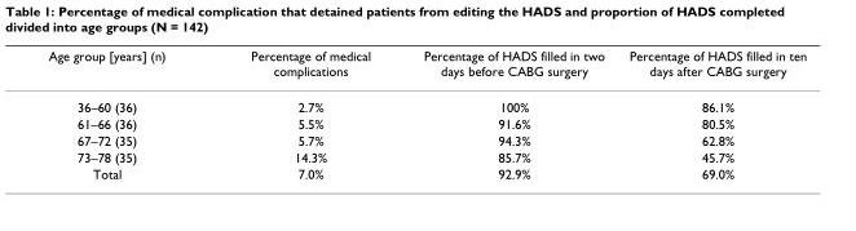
<table><thead><tr><td>Age group [years] (n)</td><td>Percentage of medical complications</td><td>Percentage of HADS filled in two days before CABG surgery</td><td>Percentage of HADS filled in ten days after CABG surgery</td></tr></thead><tbody><tr><td>36–60 (36)</td><td>2.7%</td><td>100%</td><td>86.1%</td></tr><tr><td>61–66 (36)</td><td>5.5%</td><td>91.6%</td><td>80.5%</td></tr><tr><td>67–72 (35)</td><td>5.7%</td><td>94.3%</td><td>62.8%</td></tr><tr><td>73–78 (35)</td><td>14.3%</td><td>85.7%</td><td>45.7%</td></tr><tr><td>Total</td><td>7.0%</td><td>92.9%</td><td>69.0%</td></tr></tbody></table>